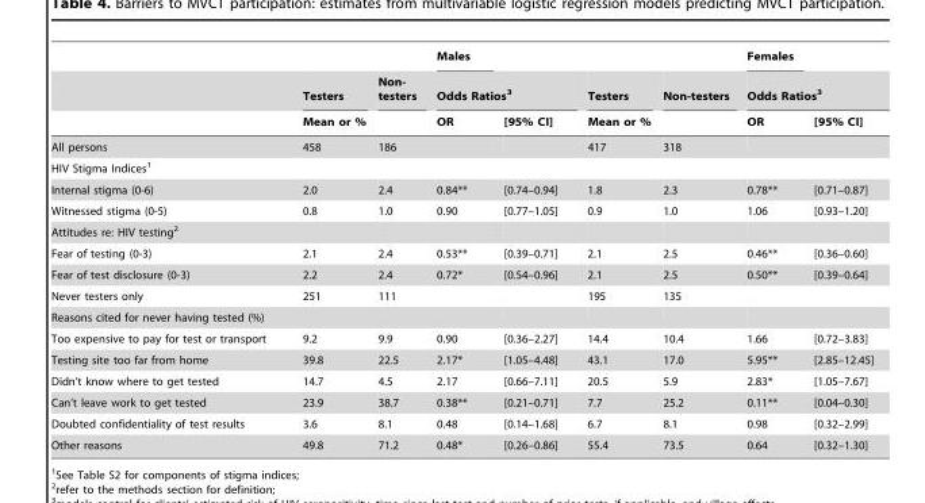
<table><thead><tr><td rowspan="3"></td><td rowspan="2">Testers</td><td rowspan="2">Non- testers</td><td>Males</td><td></td><td rowspan="2">Testers</td><td rowspan="2">Non-testers</td><td>Females</td><td></td></tr><tr><td colspan="2">Odds Ratios<sup>3</sup></td><td colspan="2">Odds Ratios<sup>3</sup></td></tr><tr><td colspan="2">Mean or %</td><td>OR</td><td>[95% CI]</td><td colspan="2">Mean or %</td><td>OR</td><td>[95% CI]</td></tr></thead><tbody><tr><td>All persons</td><td>458</td><td>186</td><td></td><td></td><td>417</td><td>318</td><td></td><td></td></tr><tr><td colspan="9">HIV Stigma Indices<sup>1</sup></td></tr><tr><td>Internal stigma (0-6)</td><td>2.0</td><td>2.4</td><td>0.84**</td><td>[0.74–0.94]</td><td>1.8</td><td>2.3</td><td>0.78**</td><td>[0.71–0.87]</td></tr><tr><td>Witnessed stigma (0-5)</td><td>0.8</td><td>1.0</td><td>0.90</td><td>[0.77–1.05]</td><td>0.9</td><td>1.0</td><td>1.06</td><td>[0.93–1.20]</td></tr><tr><td colspan="9">Attitudes re: HIV testing<sup>2</sup></td></tr><tr><td>Fear of testing (0-3)</td><td>2.1</td><td>2.4</td><td>0.53**</td><td>[0.39–0.71]</td><td>2.1</td><td>2.5</td><td>0.46**</td><td>[0.36–0.60]</td></tr><tr><td>Fear of test disclosure (0-3)</td><td>2.2</td><td>2.4</td><td>0.72*</td><td>[0.54–0.96]</td><td>2.1</td><td>2.5</td><td>0.50**</td><td>[0.39–0.64]</td></tr><tr><td>Never testers only</td><td>251</td><td>111</td><td></td><td></td><td>195</td><td>135</td><td></td><td></td></tr><tr><td colspan="9">Reasons cited for never having tested (%)</td></tr><tr><td>Too expensive to pay for test or transport</td><td>9.2</td><td>9.9</td><td>0.90</td><td>[0.36–2.27]</td><td>14.4</td><td>10.4</td><td>1.66</td><td>[0.72–3.83]</td></tr><tr><td>Testing site too far from home</td><td>39.8</td><td>22.5</td><td>2.17*</td><td>[1.05–4.48]</td><td>43.1</td><td>17.0</td><td>5.95**</td><td>[2.85–12.45]</td></tr><tr><td>Didn’t know where to get tested</td><td>14.7</td><td>4.5</td><td>2.17</td><td>[0.66–7.11]</td><td>20.5</td><td>5.9</td><td>2.83*</td><td>[1.05–7.67]</td></tr><tr><td>Can’t leave work to get tested</td><td>23.9</td><td>38.7</td><td>0.38**</td><td>[0.21–0.71]</td><td>7.7</td><td>25.2</td><td>0.11**</td><td>[0.04–0.30]</td></tr><tr><td>Doubted confidentiality of test results</td><td>3.6</td><td>8.1</td><td>0.48</td><td>[0.14–1.68]</td><td>6.7</td><td>8.1</td><td>0.98</td><td>[0.32–2.99]</td></tr><tr><td>Other reasons</td><td>49.8</td><td>71.2</td><td>0.48*</td><td>[0.26–0.86]</td><td>55.4</td><td>73.5</td><td>0.64</td><td>[0.32–1.30]</td></tr></tbody></table>